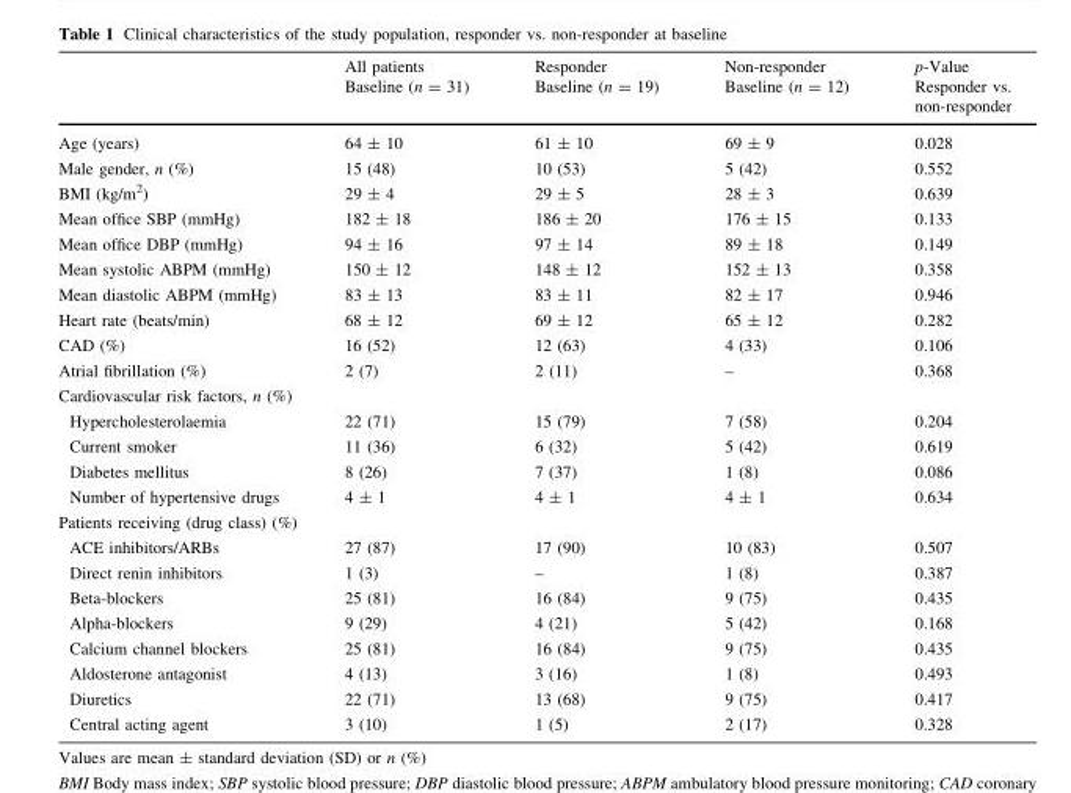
<table><thead><tr><td rowspan="2"></td><td rowspan="2">All patients Baseline (n = 31)</td><td rowspan="2">Responder Baseline (n = 19)</td><td rowspan="2">Non-responder Baseline (n = 12)</td><td rowspan="2">p-Value Responder vs. non-responder</td></tr><tr></tr></thead><tbody><tr><td>Age (years)</td><td>64 ± 10</td><td>61 ± 10</td><td>69 ± 9</td><td>0.028</td></tr><tr><td>Male gender, n (%)</td><td>15 (48)</td><td>10 (53)</td><td>5 (42)</td><td>0.552</td></tr><tr><td>BMI (kg/m<sup>2</sup>)</td><td>29 ± 4</td><td>29 ± 5</td><td>28 ± 3</td><td>0.639</td></tr><tr><td>Mean office SBP (mmHg)</td><td>182 ± 18</td><td>186 ± 20</td><td>176 ± 15</td><td>0.133</td></tr><tr><td>Mean office DBP (mmHg)</td><td>94 ± 16</td><td>97 ± 14</td><td>89 ± 18</td><td>0.149</td></tr><tr><td>Mean systolic ABPM (mmHg)</td><td>150 ± 12</td><td>148 ± 12</td><td>152 ± 13</td><td>0.358</td></tr><tr><td>Mean diastolic ABPM (mmHg)</td><td>83 ± 13</td><td>83 ± 11</td><td>82 ± 17</td><td>0.946</td></tr><tr><td>Heart rate (beats/min)</td><td>68 ± 12</td><td>69 ± 12</td><td>65 ± 12</td><td>0.282</td></tr><tr><td>CAD (%)</td><td>16 (52)</td><td>12 (63)</td><td>4 (33)</td><td>0.106</td></tr><tr><td>Atrial fibrillation (%)</td><td>2 (7)</td><td>2 (11)</td><td>–</td><td>0.368</td></tr><tr><td colspan="5">Cardiovascular risk factors, n (%)</td></tr><tr><td>Hypercholesterolaemia</td><td>22 (71)</td><td>15 (79)</td><td>7 (58)</td><td>0.204</td></tr><tr><td>Current smoker</td><td>11 (36)</td><td>6 (32)</td><td>5 (42)</td><td>0.619</td></tr><tr><td>Diabetes mellitus</td><td>8 (26)</td><td>7 (37)</td><td>1 (8)</td><td>0.086</td></tr><tr><td>Number of hypertensive drugs</td><td>4 ± 1</td><td>4 ± 1</td><td>4 ± 1</td><td>0.634</td></tr><tr><td colspan="5">Patients receiving (drug class) (%)</td></tr><tr><td>ACE inhibitors/ARBs</td><td>27 (87)</td><td>17 (90)</td><td>10 (83)</td><td>0.507</td></tr><tr><td>Direct renin inhibitors</td><td>1 (3)</td><td>–</td><td>1 (8)</td><td>0.387</td></tr><tr><td>Beta-blockers</td><td>25 (81)</td><td>16 (84)</td><td>9 (75)</td><td>0.435</td></tr><tr><td>Alpha-blockers</td><td>9 (29)</td><td>4 (21)</td><td>5 (42)</td><td>0.168</td></tr><tr><td>Calcium channel blockers</td><td>25 (81)</td><td>16 (84)</td><td>9 (75)</td><td>0.435</td></tr><tr><td>Aldosterone antagonist</td><td>4 (13)</td><td>3 (16)</td><td>1 (8)</td><td>0.493</td></tr><tr><td>Diuretics</td><td>22 (71)</td><td>13 (68)</td><td>9 (75)</td><td>0.417</td></tr><tr><td>Central acting agent</td><td>3 (10)</td><td>1 (5)</td><td>2 (17)</td><td>0.328</td></tr></tbody></table>